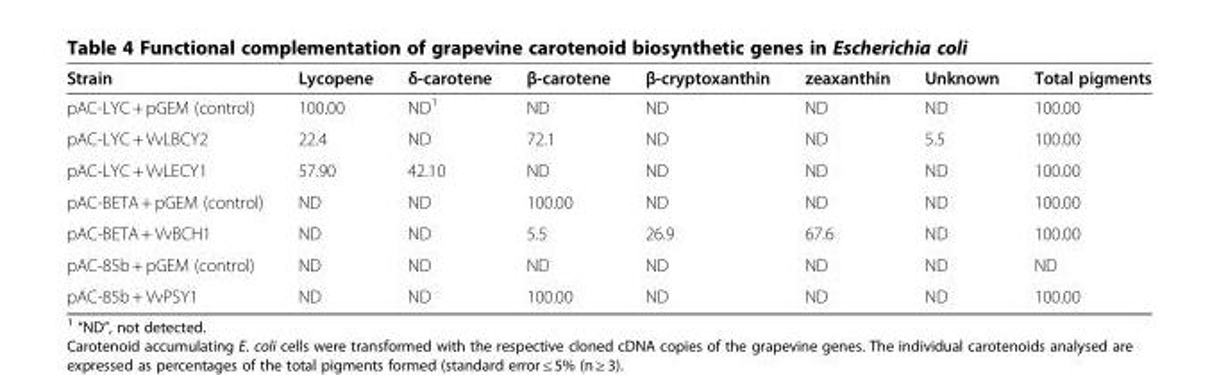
<table><thead><tr><td>Strain</td><td>Lycopene</td><td>δ-carotene</td><td>β-carotene</td><td>β-cryptoxanthin</td><td>zeaxanthin</td><td>Unknown</td><td>Total pigments</td></tr></thead><tbody><tr><td>pAC-LYC + pGEM (control)</td><td>100.00</td><td>ND<sup>1</sup></td><td>ND</td><td>ND</td><td>ND</td><td>ND</td><td>100.00</td></tr><tr><td>pAC-LYC + VvLBCY2</td><td>22.4</td><td>ND</td><td>72.1</td><td>ND</td><td>ND</td><td>5.5</td><td>100.00</td></tr><tr><td>pAC-LYC + VvLECY1</td><td>57.90</td><td>42.10</td><td>ND</td><td>ND</td><td>ND</td><td>ND</td><td>100.00</td></tr><tr><td>pAC-BETA + pGEM (control)</td><td>ND</td><td>ND</td><td>100.00</td><td>ND</td><td>ND</td><td>ND</td><td>100.00</td></tr><tr><td>pAC-BETA + VvBCH1</td><td>ND</td><td>ND</td><td>5.5</td><td>26.9</td><td>67.6</td><td>ND</td><td>100.00</td></tr><tr><td>pAC-85b + pGEM (control)</td><td>ND</td><td>ND</td><td>ND</td><td>ND</td><td>ND</td><td>ND</td><td>ND</td></tr><tr><td>pAC-85b + VvPSY1</td><td>ND</td><td>ND</td><td>100.00</td><td>ND</td><td>ND</td><td>ND</td><td>100.00</td></tr></tbody></table>